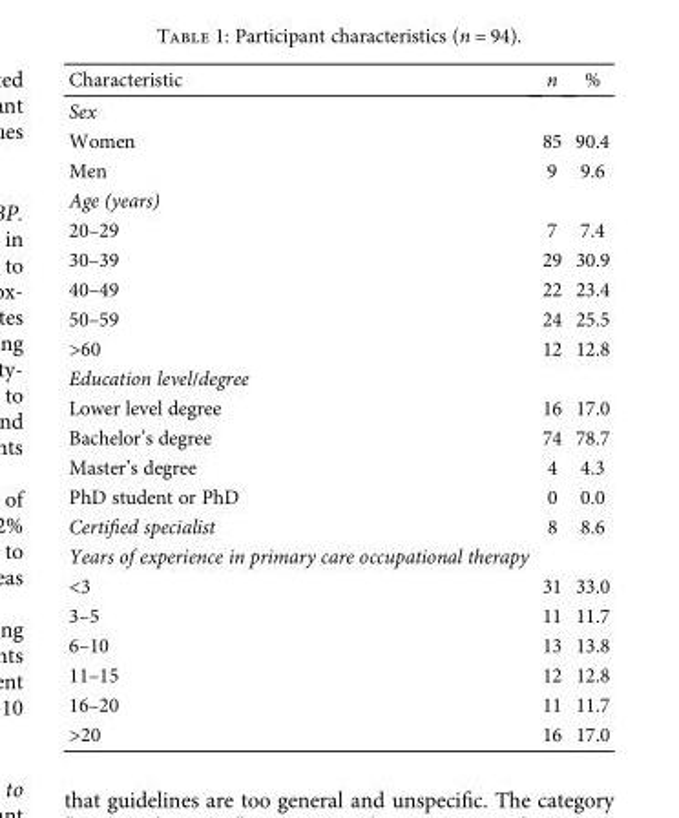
<table><thead><tr><td>Characteristic</td><td>n</td><td>%</td></tr></thead><tbody><tr><td colspan="3">Sex</td></tr><tr><td>Women</td><td>85</td><td>90.4</td></tr><tr><td>Men</td><td>9</td><td>9.6</td></tr><tr><td colspan="3">Age (years)</td></tr><tr><td>20–29</td><td>7</td><td>7.4</td></tr><tr><td>30–39</td><td>29</td><td>30.9</td></tr><tr><td>40–49</td><td>22</td><td>23.4</td></tr><tr><td>50–59</td><td>24</td><td>25.5</td></tr><tr><td>&gt;60</td><td>12</td><td>12.8</td></tr><tr><td colspan="3">Education level/degree</td></tr><tr><td>Lower level degree</td><td>16</td><td>17.0</td></tr><tr><td>Bachelor’s degree</td><td>74</td><td>78.7</td></tr><tr><td>Master’s degree</td><td>4</td><td>4.3</td></tr><tr><td>PhD student or PhD</td><td>0</td><td>0.0</td></tr><tr><td>Certified specialist</td><td>8</td><td>8.6</td></tr><tr><td colspan="3">Years of experience in primary care occupational therapy</td></tr><tr><td>&lt;3</td><td>31</td><td>33.0</td></tr><tr><td>3–5</td><td>11</td><td>11.7</td></tr><tr><td>6–10</td><td>13</td><td>13.8</td></tr><tr><td>11–15</td><td>12</td><td>12.8</td></tr><tr><td>16–20</td><td>11</td><td>11.7</td></tr><tr><td>&gt;20</td><td>16</td><td>17.0</td></tr></tbody></table>